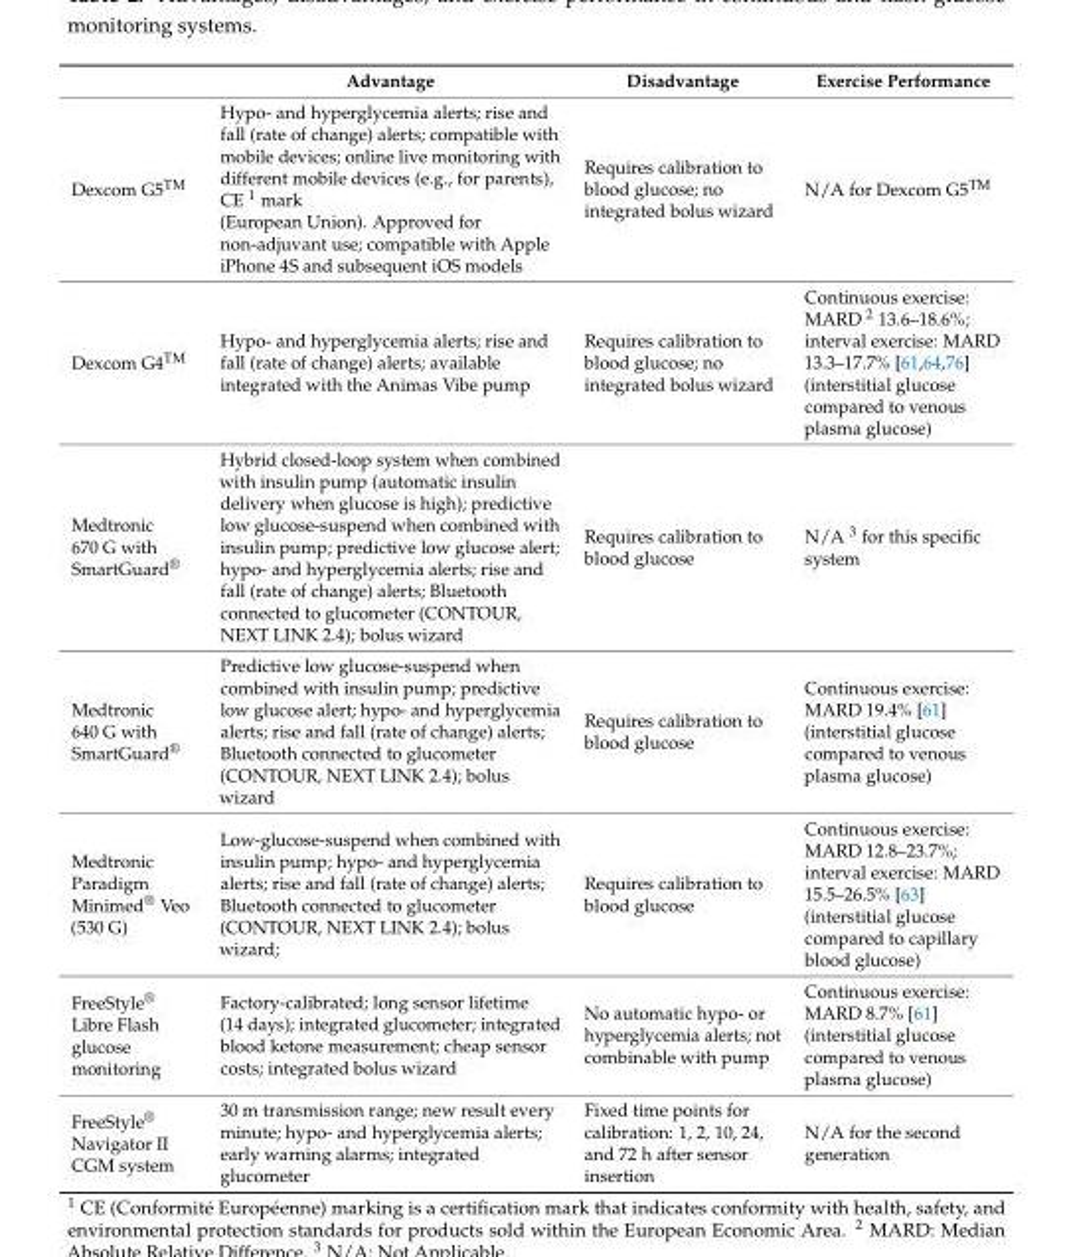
<table><thead><tr><td></td><td>Advantage</td><td>Disadvantage</td><td>Exercise Performance</td></tr></thead><tbody><tr><td>Dexcom G5<sup>TM</sup></td><td>Hypo- and hyperglycemia alerts; rise and fall (rate of change) alerts; compatible with mobile devices; online live monitoring with different mobile devices (e.g., for parents), CE <sup>1</sup> mark (European Union). Approved for non-adjuvant use; compatible with Apple iPhone 4S and subsequent iOS models</td><td>Requires calibration to blood glucose; no integrated bolus wizard</td><td>N/A for Dexcom G5<sup>TM</sup></td></tr><tr><td>Dexcom G4<sup>TM</sup></td><td>Hypo- and hyperglycemia alerts; rise and fall (rate of change) alerts; available integrated with the Animas Vibe pump</td><td>Requires calibration to blood glucose; no integrated bolus wizard</td><td>Continuous exercise: MARD <sup>2</sup> 13.6–18.6%; interval exercise: MARD 13.3–17.7% [61,64,76] (interstitial glucose compared to venous plasma glucose)</td></tr><tr><td>Medtronic 670 G with SmartGuard<sup>®</sup></td><td>Hybrid closed-loop system when combined with insulin pump (automatic insulin delivery when glucose is high); predictive low glucose-suspend when combined with insulin pump; predictive low glucose alert; hypo- and hyperglycemia alerts; rise and fall (rate of change) alerts; Bluetooth connected to glucometer (CONTOUR, NEXT LINK 2.4); bolus wizard</td><td>Requires calibration to blood glucose</td><td>N/A <sup>3</sup> for this specific system</td></tr><tr><td>Medtronic 640 G with SmartGuard<sup>®</sup></td><td>Predictive low glucose-suspend when combined with insulin pump; predictive low glucose alert; hypo- and hyperglycemia alerts; rise and fall (rate of change) alerts; Bluetooth connected to glucometer (CONTOUR, NEXT LINK 2.4); bolus wizard</td><td>Requires calibration to blood glucose</td><td>Continuous exercise: MARD 19.4% [61] (interstitial glucose compared to venous plasma glucose)</td></tr><tr><td>Medtronic Paradigm Minimed<sup>®</sup> Veo (530 G)</td><td>Low-glucose-suspend when combined with insulin pump; hypo- and hyperglycemia alerts; rise and fall (rate of change) alerts; Bluetooth connected to glucometer (CONTOUR, NEXT LINK 2.4); bolus wizard;</td><td>Requires calibration to blood glucose</td><td>Continuous exercise: MARD 12.8–23.7%; interval exercise: MARD 15.5–26.5% [63] (interstitial glucose compared to capillary blood glucose)</td></tr><tr><td>FreeStyle<sup>®</sup> Libre Flash glucose monitoring</td><td>Factory-calibrated; long sensor lifetime (14 days); integrated glucometer; integrated blood ketone measurement; cheap sensor costs; integrated bolus wizard</td><td>No automatic hypo- or hyperglycemia alerts; not combinable with pump</td><td>Continuous exercise: MARD 8.7% [61] (interstitial glucose compared to venous plasma glucose)</td></tr><tr><td>FreeStyle<sup>®</sup> Navigator II CGM system</td><td>30 m transmission range; new result every minute; hypo- and hyperglycemia alerts; early warning alarms; integrated glucometer</td><td>Fixed time points for calibration: 1, 2, 10, 24, and 72 h after sensor insertion</td><td>N/A for the second generation</td></tr></tbody></table>